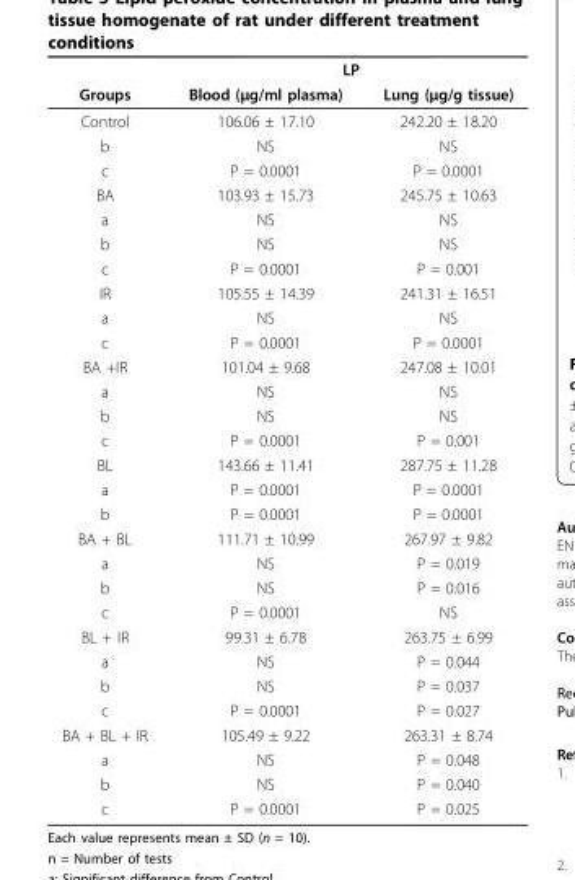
<table><thead><tr><td rowspan="2">Groups</td><td colspan="2">LP</td></tr><tr><td>Blood (μg/ml plasma)</td><td>Lung (μg/g tissue)</td></tr></thead><tbody><tr><td>Control</td><td>106.06 ± 17.10</td><td>242.20 ± 18.20</td></tr><tr><td>b</td><td>NS</td><td>NS</td></tr><tr><td>c</td><td>P = 0.0001</td><td>P = 0.0001</td></tr><tr><td>BA</td><td>103.93 ± 15.73</td><td>245.75 ± 10.63</td></tr><tr><td>a</td><td>NS</td><td>NS</td></tr><tr><td>b</td><td>NS</td><td>NS</td></tr><tr><td>c</td><td>P = 0.0001</td><td>P = 0.001</td></tr><tr><td>IR</td><td>105.55 ± 14.39</td><td>241.31 ± 16.51</td></tr><tr><td>a</td><td>NS</td><td>NS</td></tr><tr><td>c</td><td>P = 0.0001</td><td>P = 0.0001</td></tr><tr><td>BA +IR</td><td>101.04 ± 9.68</td><td>247.08 ± 10.01</td></tr><tr><td>a</td><td>NS</td><td>NS</td></tr><tr><td>b</td><td>NS</td><td>NS</td></tr><tr><td>c</td><td>P = 0.0001</td><td>P = 0.001</td></tr><tr><td>BL</td><td>143.66 ± 11.41</td><td>287.75 ± 11.28</td></tr><tr><td>a</td><td>P = 0.0001</td><td>P = 0.0001</td></tr><tr><td>b</td><td>P = 0.0001</td><td>P = 0.0001</td></tr><tr><td>BA + BL</td><td>111.71 ± 10.99</td><td>267.97 ± 9.82</td></tr><tr><td>a</td><td>NS</td><td>P = 0.019</td></tr><tr><td>b</td><td>NS</td><td>P = 0.016</td></tr><tr><td>c</td><td>P = 0.0001</td><td>NS</td></tr><tr><td>BL + IR</td><td>99.31 ± 6.78</td><td>263.75 ± 6.99</td></tr><tr><td>a</td><td>NS</td><td>P = 0.044</td></tr><tr><td>b</td><td>NS</td><td>P = 0.037</td></tr><tr><td>c</td><td>P = 0.0001</td><td>P = 0.027</td></tr><tr><td>BA + BL + IR</td><td>105.49 ± 9.22</td><td>263.31 ± 8.74</td></tr><tr><td>a</td><td>NS</td><td>P = 0.048</td></tr><tr><td>b</td><td>NS</td><td>P = 0.040</td></tr><tr><td>c</td><td>P = 0.0001</td><td>P = 0.025</td></tr></tbody></table>